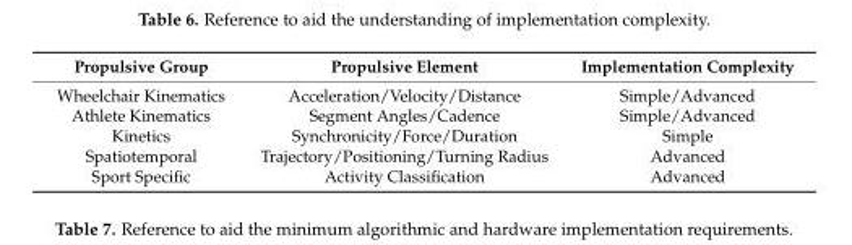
<table><thead><tr><td>Propulsive Group</td><td>Propulsive Element</td><td>Implementation Complexity</td></tr></thead><tbody><tr><td>Wheelchair Kinematics</td><td>Acceleration/Velocity/Distance</td><td>Simple/Advanced</td></tr><tr><td>Athlete Kinematics</td><td>Segment Angles/Cadence</td><td>Simple/Advanced</td></tr><tr><td>Kinetics</td><td>Synchronicity/Force/Duration</td><td>Simple</td></tr><tr><td>Spatiotemporal</td><td>Trajectory/Positioning/Turning Radius</td><td>Advanced</td></tr><tr><td>Sport Specific</td><td>Activity Classification</td><td>Advanced</td></tr></tbody></table>